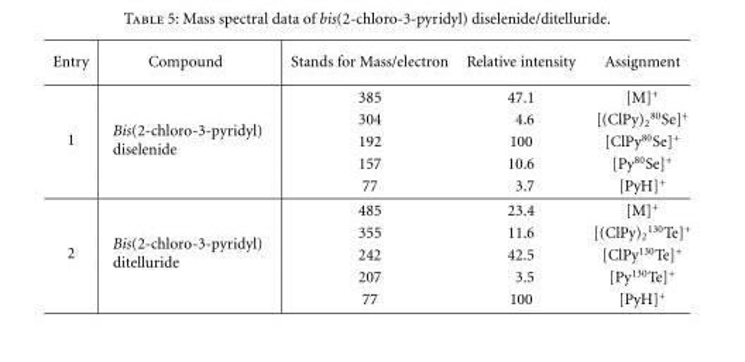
<table><tbody><tr><td>Entry</td><td>Compound</td><td>Stands for Mass/electron</td><td>Relative intensity</td><td>Assignment</td></tr><tr><td rowspan="5">1</td><td rowspan="5">Bis(2-chloro-3-pyridyl) diselenide</td><td>385</td><td>47.1</td><td>[M]<sup>+</sup></td></tr><tr><td>304</td><td>4.6</td><td>[(ClPy)<sub>2</sub><sup>80</sup>Se]<sup>+</sup></td></tr><tr><td>192</td><td>100</td><td>[ClPy<sup>80</sup>Se]<sup>+</sup></td></tr><tr><td>157</td><td>10.6</td><td>[Py<sup>80</sup>Se]<sup>+</sup></td></tr><tr><td>77</td><td>3.7</td><td>[PyH]<sup>+</sup></td></tr><tr><td rowspan="5">2</td><td rowspan="5">Bis(2-chloro-3-pyridyl) ditelluride</td><td>485</td><td>23.4</td><td>[M]<sup>+</sup></td></tr><tr><td>355</td><td>11.6</td><td>[(ClPy)<sub>2</sub><sup>130</sup>Te]<sup>+</sup></td></tr><tr><td>242</td><td>42.5</td><td>[ClPy<sup>130</sup>Te]<sup>+</sup></td></tr><tr><td>207</td><td>3.5</td><td>[Py<sup>130</sup>Te]<sup>+</sup></td></tr><tr><td>77</td><td>100</td><td>[PyH]<sup>+</sup></td></tr></tbody></table>